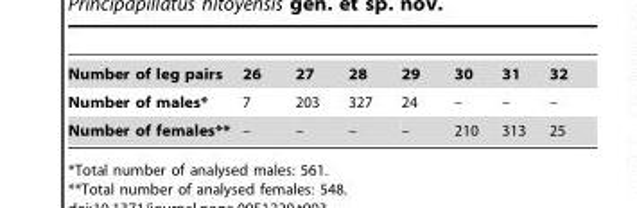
<table><tbody><tr><td>Number of leg pairs</td><td>26</td><td>27</td><td>28</td><td>29</td><td>30</td><td>31</td><td>32</td></tr><tr><td>Number of males*</td><td>7</td><td>203</td><td>327</td><td>24</td><td>–</td><td>–</td><td>–</td></tr><tr><td>Number of females**</td><td>–</td><td>–</td><td>–</td><td>–</td><td>210</td><td>313</td><td>25</td></tr></tbody></table>